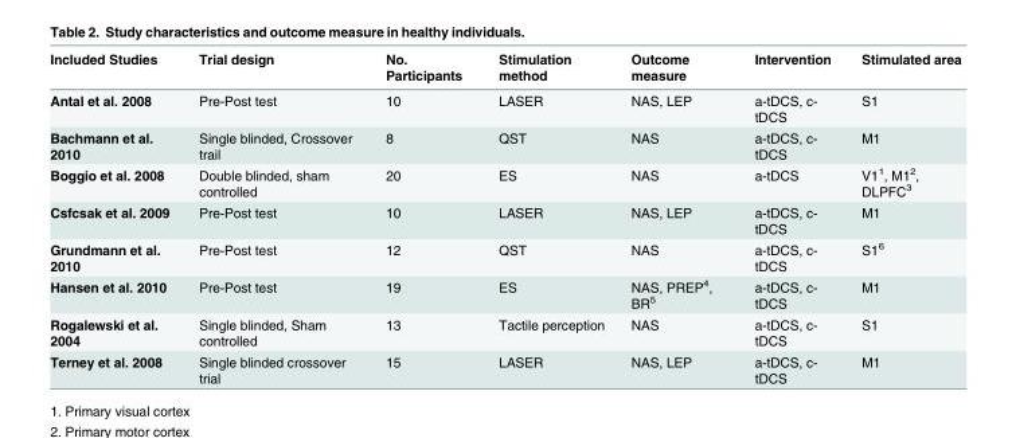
<table><thead><tr><td>Included Studies</td><td>Trial design</td><td>No. Participants</td><td>Stimulation method</td><td>Outcome measure</td><td>Intervention</td><td>Stimulated area</td></tr></thead><tbody><tr><td>Antal et al. 2008</td><td>Pre-Post test</td><td>10</td><td>LASER</td><td>NAS, LEP</td><td>a-tDCS, c- tDCS</td><td>S1</td></tr><tr><td>Bachmann et al. 2010</td><td>Single blinded, Crossover trail</td><td>8</td><td>QST</td><td>NAS</td><td>a-tDCS, c- tDCS</td><td>M1</td></tr><tr><td>Boggio et al. 2008</td><td>Double blinded, sham controlled</td><td>20</td><td>ES</td><td>NAS</td><td>a-tDCS</td><td>V1<sup>1</sup>, M1<sup>2</sup>, DLPFC<sup>3</sup></td></tr><tr><td>Csfcsak et al. 2009</td><td>Pre-Post test</td><td>10</td><td>LASER</td><td>NAS, LEP</td><td>a-tDCS, c- tDCS</td><td>M1</td></tr><tr><td>Grundmann et al. 2010</td><td>Pre-Post test</td><td>12</td><td>QST</td><td>NAS</td><td>a-tDCS, c- tDCS</td><td>S1<sup>6</sup></td></tr><tr><td>Hansen et al. 2010</td><td>Pre-Post test</td><td>19</td><td>ES</td><td>NAS, PREP<sup>4</sup>, BR<sup>5</sup></td><td>a-tDCS, c- tDCS</td><td>M1</td></tr><tr><td>Rogalewski et al. 2004</td><td>Single blinded, Sham controlled</td><td>13</td><td>Tactile perception</td><td>NAS</td><td>a-tDCS, c- tDCS</td><td>S1</td></tr><tr><td>Terney et al. 2008</td><td>Single blinded crossover trial</td><td>15</td><td>LASER</td><td>NAS, LEP</td><td>a-tDCS, c- tDCS</td><td>M1</td></tr></tbody></table>